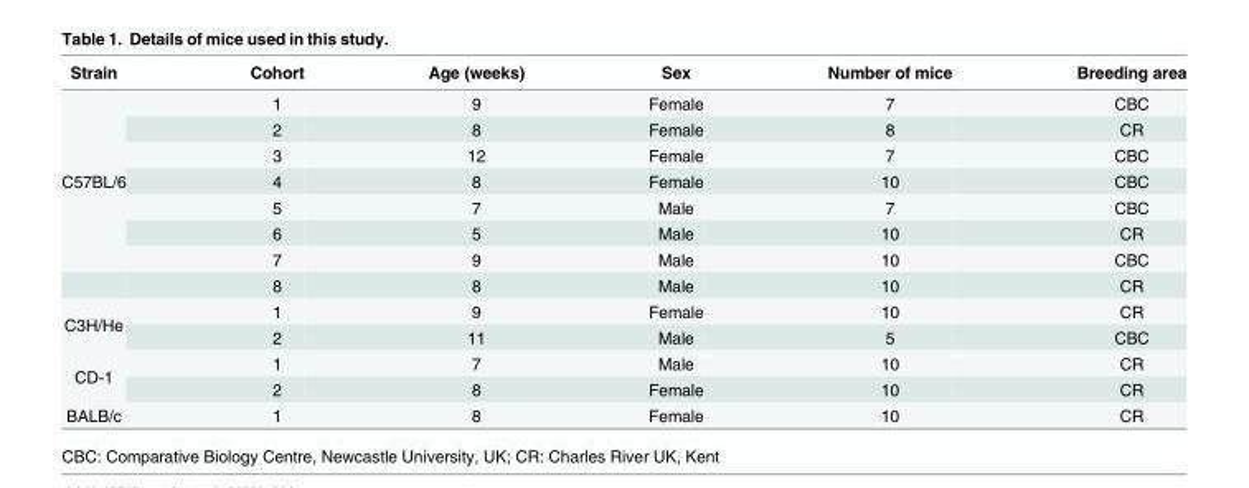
<table><thead><tr><td>Strain</td><td>Cohort</td><td>Age (weeks)</td><td>Sex</td><td>Number of mice</td><td>Breeding area</td></tr></thead><tbody><tr><td rowspan="8">C57BL/6</td><td>1</td><td>9</td><td>Female</td><td>7</td><td>CBC</td></tr><tr><td>2</td><td>8</td><td>Female</td><td>8</td><td>CR</td></tr><tr><td>3</td><td>12</td><td>Female</td><td>7</td><td>CBC</td></tr><tr><td>4</td><td>8</td><td>Female</td><td>10</td><td>CBC</td></tr><tr><td>5</td><td>7</td><td>Male</td><td>7</td><td>CBC</td></tr><tr><td>6</td><td>5</td><td>Male</td><td>10</td><td>CR</td></tr><tr><td>7</td><td>9</td><td>Male</td><td>10</td><td>CBC</td></tr><tr><td>8</td><td>8</td><td>Male</td><td>10</td><td>CR</td></tr><tr><td rowspan="2">C3H/He</td><td>1</td><td>9</td><td>Female</td><td>10</td><td>CR</td></tr><tr><td>2</td><td>11</td><td>Male</td><td>5</td><td>CBC</td></tr><tr><td rowspan="2">CD-1</td><td>1</td><td>7</td><td>Male</td><td>10</td><td>CR</td></tr><tr><td>2</td><td>8</td><td>Female</td><td>10</td><td>CR</td></tr><tr><td>BALB/c</td><td>1</td><td>8</td><td>Female</td><td>10</td><td>CR</td></tr></tbody></table>